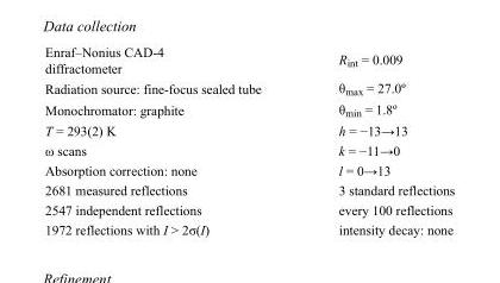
<table><tbody><tr><td>Enraf–Nonius CAD-4 diffractometer</td><td>R<sub>int</sub> = 0.009</td></tr><tr><td>Radiation source: fine-focus sealed tube</td><td>θ<sub>max</sub> = 27.0º</td></tr><tr><td>Monochromator: graphite</td><td>θ<sub>min</sub> = 1.8º</td></tr><tr><td>T = 293(2) K</td><td>h = −13→13</td></tr><tr><td>ω scans</td><td>k = −11→0</td></tr><tr><td>Absorption correction: none</td><td>l = 0→13</td></tr><tr><td>2681 measured reflections</td><td>3 standard reflections</td></tr><tr><td>2547 independent reflections</td><td>every 100 reflections</td></tr><tr><td>1972 reflections with I &gt; 2σ(I)</td><td>intensity decay: none</td></tr></tbody></table>